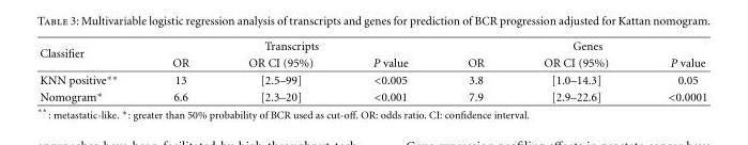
<table><thead><tr><td rowspan="2">Classifier</td><td colspan="3">Transcripts</td><td colspan="3">Genes</td></tr><tr><td>OR</td><td>OR CI (95%)</td><td>P value</td><td>OR</td><td>OR CI (95%)</td><td>P value</td></tr></thead><tbody><tr><td>KNN positive∗∗</td><td>13</td><td>[2.5–99]</td><td>&lt;0.005</td><td>3.8</td><td>[1.0–14.3]</td><td>0.05</td></tr><tr><td>Nomogram∗</td><td>6.6</td><td>[2.3–20]</td><td>&lt;0.001</td><td>7.9</td><td>[2.9–22.6]</td><td>&lt;0.0001</td></tr></tbody></table>